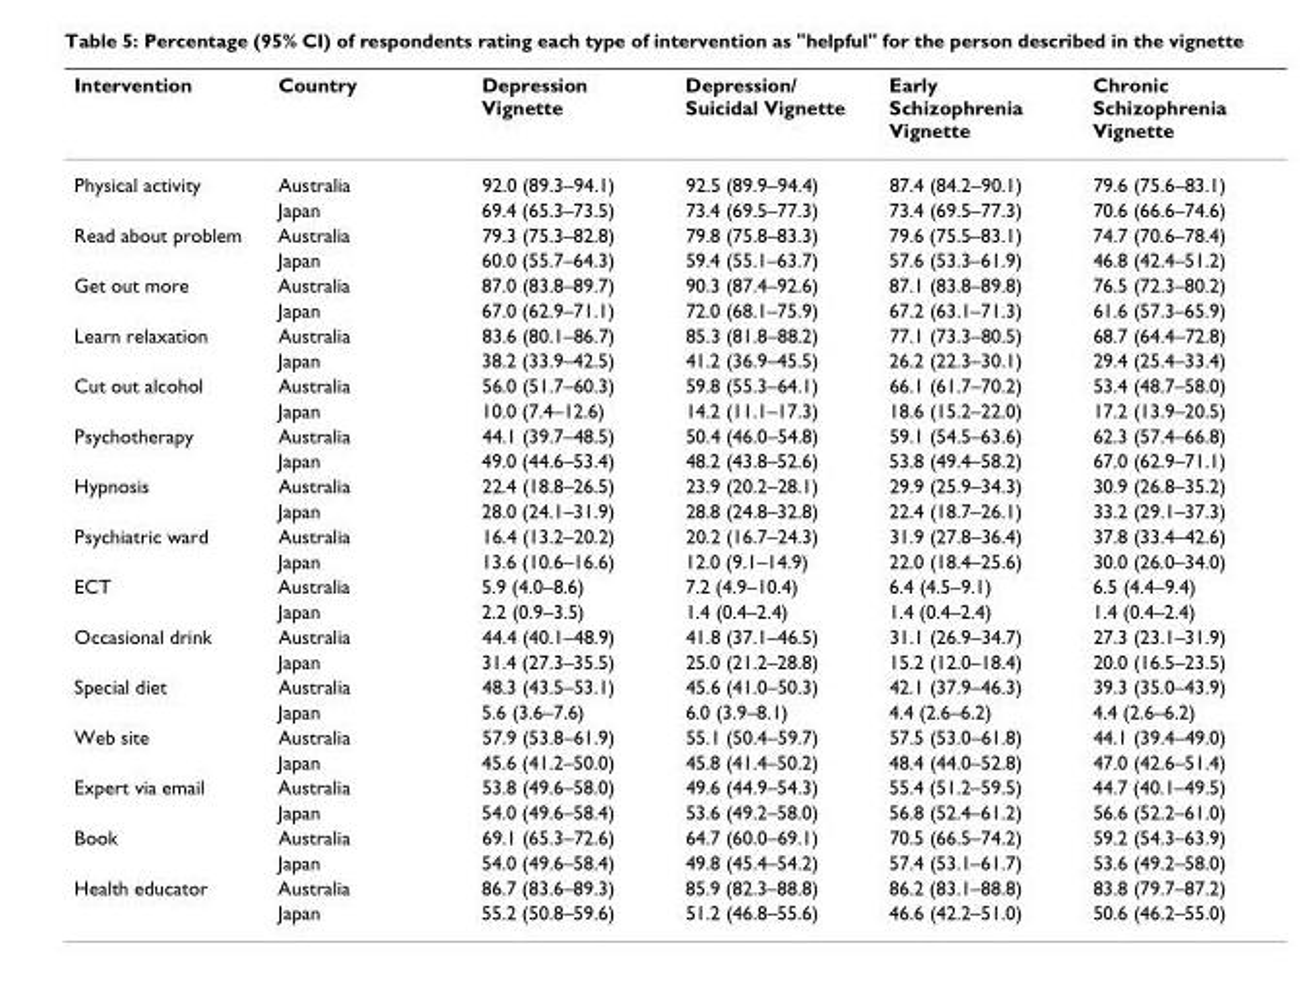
<table><thead><tr><td>Intervention</td><td>Country</td><td>Depression Vignette</td><td>Depression/ Suicidal Vignette</td><td>Early Schizophrenia Vignette</td><td>Chronic Schizophrenia Vignette</td></tr></thead><tbody><tr><td rowspan="2">Physical activity</td><td>Australia</td><td>92.0 (89.3–94.1)</td><td>92.5 (89.9–94.4)</td><td>87.4 (84.2–90.1)</td><td>79.6 (75.6–83.1)</td></tr><tr><td>Japan</td><td>69.4 (65.3–73.5)</td><td>73.4 (69.5–77.3)</td><td>73.4 (69.5–77.3)</td><td>70.6 (66.6–74.6)</td></tr><tr><td rowspan="2">Read about problem</td><td>Australia</td><td>79.3 (75.3–82.8)</td><td>79.8 (75.8–83.3)</td><td>79.6 (75.5–83.1)</td><td>74.7 (70.6–78.4)</td></tr><tr><td>Japan</td><td>60.0 (55.7–64.3)</td><td>59.4 (55.1–63.7)</td><td>57.6 (53.3–61.9)</td><td>46.8 (42.4–51.2)</td></tr><tr><td rowspan="2">Get out more</td><td>Australia</td><td>87.0 (83.8–89.7)</td><td>90.3 (87.4–92.6)</td><td>87.1 (83.8–89.8)</td><td>76.5 (72.3–80.2)</td></tr><tr><td>Japan</td><td>67.0 (62.9–71.1)</td><td>72.0 (68.1–75.9)</td><td>67.2 (63.1–71.3)</td><td>61.6 (57.3–65.9)</td></tr><tr><td rowspan="2">Learn relaxation</td><td>Australia</td><td>83.6 (80.1–86.7)</td><td>85.3 (81.8–88.2)</td><td>77.1 (73.3–80.5)</td><td>68.7 (64.4–72.8)</td></tr><tr><td>Japan</td><td>38.2 (33.9–42.5)</td><td>41.2 (36.9–45.5)</td><td>26.2 (22.3–30.1)</td><td>29.4 (25.4–33.4)</td></tr><tr><td rowspan="2">Cut out alcohol</td><td>Australia</td><td>56.0 (51.7–60.3)</td><td>59.8 (55.3–64.1)</td><td>66.1 (61.7–70.2)</td><td>53.4 (48.7–58.0)</td></tr><tr><td>Japan</td><td>10.0 (7.4–12.6)</td><td>14.2 (11.1–17.3)</td><td>18.6 (15.2–22.0)</td><td>17.2 (13.9–20.5)</td></tr><tr><td rowspan="2">Psychotherapy</td><td>Australia</td><td>44.1 (39.7–48.5)</td><td>50.4 (46.0–54.8)</td><td>59.1 (54.5–63.6)</td><td>62.3 (57.4–66.8)</td></tr><tr><td>Japan</td><td>49.0 (44.6–53.4)</td><td>48.2 (43.8–52.6)</td><td>53.8 (49.4–58.2)</td><td>67.0 (62.9–71.1)</td></tr><tr><td rowspan="2">Hypnosis</td><td>Australia</td><td>22.4 (18.8–26.5)</td><td>23.9 (20.2–28.1)</td><td>29.9 (25.9–34.3)</td><td>30.9 (26.8–35.2)</td></tr><tr><td>Japan</td><td>28.0 (24.1–31.9)</td><td>28.8 (24.8–32.8)</td><td>22.4 (18.7–26.1)</td><td>33.2 (29.1–37.3)</td></tr><tr><td rowspan="2">Psychiatric ward</td><td>Australia</td><td>16.4 (13.2–20.2)</td><td>20.2 (16.7–24.3)</td><td>31.9 (27.8–36.4)</td><td>37.8 (33.4–42.6)</td></tr><tr><td>Japan</td><td>13.6 (10.6–16.6)</td><td>12.0 (9.1–14.9)</td><td>22.0 (18.4–25.6)</td><td>30.0 (26.0–34.0)</td></tr><tr><td rowspan="2">ECT</td><td>Australia</td><td>5.9 (4.0–8.6)</td><td>7.2 (4.9–10.4)</td><td>6.4 (4.5–9.1)</td><td>6.5 (4.4–9.4)</td></tr><tr><td>Japan</td><td>2.2 (0.9–3.5)</td><td>1.4 (0.4–2.4)</td><td>1.4 (0.4–2.4)</td><td>1.4 (0.4–2.4)</td></tr><tr><td rowspan="2">Occasional drink</td><td>Australia</td><td>44.4 (40.1–48.9)</td><td>41.8 (37.1–46.5)</td><td>31.1 (26.9–34.7)</td><td>27.3 (23.1–31.9)</td></tr><tr><td>Japan</td><td>31.4 (27.3–35.5)</td><td>25.0 (21.2–28.8)</td><td>15.2 (12.0–18.4)</td><td>20.0 (16.5–23.5)</td></tr><tr><td rowspan="2">Special diet</td><td>Australia</td><td>48.3 (43.5–53.1)</td><td>45.6 (41.0–50.3)</td><td>42.1 (37.9–46.3)</td><td>39.3 (35.0–43.9)</td></tr><tr><td>Japan</td><td>5.6 (3.6–7.6)</td><td>6.0 (3.9–8.1)</td><td>4.4 (2.6–6.2)</td><td>4.4 (2.6–6.2)</td></tr><tr><td rowspan="2">Web site</td><td>Australia</td><td>57.9 (53.8–61.9)</td><td>55.1 (50.4–59.7)</td><td>57.5 (53.0–61.8)</td><td>44.1 (39.4–49.0)</td></tr><tr><td>Japan</td><td>45.6 (41.2–50.0)</td><td>45.8 (41.4–50.2)</td><td>48.4 (44.0–52.8)</td><td>47.0 (42.6–51.4)</td></tr><tr><td rowspan="2">Expert via email</td><td>Australia</td><td>53.8 (49.6–58.0)</td><td>49.6 (44.9–54.3)</td><td>55.4 (51.2–59.5)</td><td>44.7 (40.1–49.5)</td></tr><tr><td>Japan</td><td>54.0 (49.6–58.4)</td><td>53.6 (49.2–58.0)</td><td>56.8 (52.4–61.2)</td><td>56.6 (52.2–61.0)</td></tr><tr><td rowspan="2">Book</td><td>Australia</td><td>69.1 (65.3–72.6)</td><td>64.7 (60.0–69.1)</td><td>70.5 (66.5–74.2)</td><td>59.2 (54.3–63.9)</td></tr><tr><td>Japan</td><td>54.0 (49.6–58.4)</td><td>49.8 (45.4–54.2)</td><td>57.4 (53.1–61.7)</td><td>53.6 (49.2–58.0)</td></tr><tr><td rowspan="2">Health educator</td><td>Australia</td><td>86.7 (83.6–89.3)</td><td>85.9 (82.3–88.8)</td><td>86.2 (83.1–88.8)</td><td>83.8 (79.7–87.2)</td></tr><tr><td>Japan</td><td>55.2 (50.8–59.6)</td><td>51.2 (46.8–55.6)</td><td>46.6 (42.2–51.0)</td><td>50.6 (46.2–55.0)</td></tr></tbody></table>